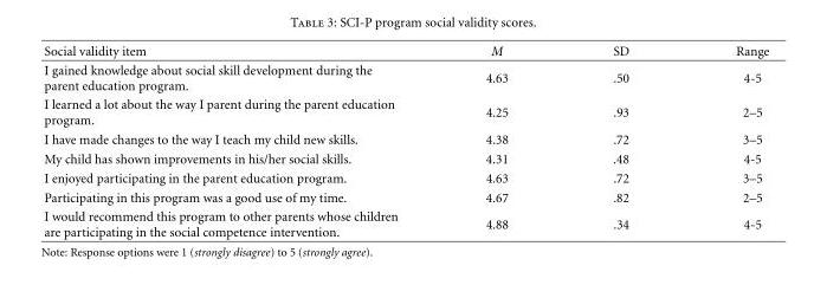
<table><thead><tr><td>Social validity item</td><td>M</td><td>SD</td><td>Range</td></tr></thead><tbody><tr><td>I gained knowledge about social skill development during the parent education program.</td><td>4.63</td><td>.50</td><td>4-5</td></tr><tr><td>I learned a lot about the way I parent during the parent education program.</td><td>4.25</td><td>.93</td><td>2–5</td></tr><tr><td>I have made changes to the way I teach my child new skills.</td><td>4.38</td><td>.72</td><td>3–5</td></tr><tr><td>My child has shown improvements in his/her social skills.</td><td>4.31</td><td>.48</td><td>4-5</td></tr><tr><td>I enjoyed participating in the parent education program.</td><td>4.63</td><td>.72</td><td>3–5</td></tr><tr><td>Participating in this program was a good use of my time.</td><td>4.67</td><td>.82</td><td>2–5</td></tr><tr><td>I would recommend this program to other parents whose children are participating in the social competence intervention.</td><td>4.88</td><td>.34</td><td>4-5</td></tr></tbody></table>